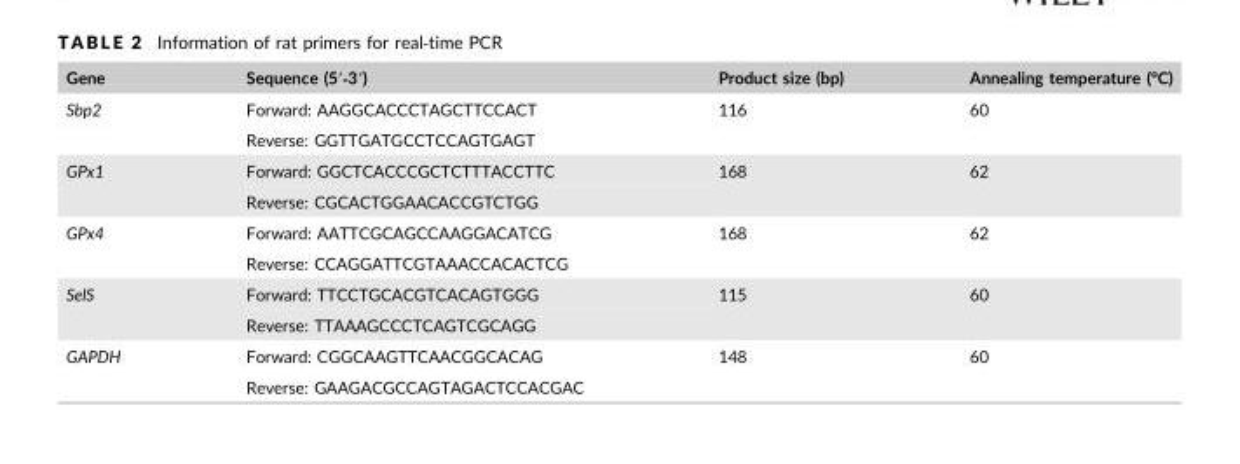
<table><thead><tr><td>Gene</td><td>Sequence (5′‐3′)</td><td>Product size (bp)</td><td>Annealing temperature (°C)</td></tr></thead><tbody><tr><td rowspan="2">Sbp2</td><td>Forward: AAGGCACCCTAGCTTCCACT</td><td rowspan="2">116</td><td rowspan="2">60</td></tr><tr><td>Reverse: GGTTGATGCCTCCAGTGAGT</td></tr><tr><td rowspan="2">GPx1</td><td>Forward: GGCTCACCCGCTCTTTACCTTC</td><td rowspan="2">168</td><td rowspan="2">62</td></tr><tr><td>Reverse: CGCACTGGAACACCGTCTGG</td></tr><tr><td rowspan="2">GPx4</td><td>Forward: AATTCGCAGCCAAGGACATCG</td><td rowspan="2">168</td><td rowspan="2">62</td></tr><tr><td>Reverse: CCAGGATTCGTAAACCACACTCG</td></tr><tr><td rowspan="2">SelS</td><td>Forward: TTCCTGCACGTCACAGTGGG</td><td rowspan="2">115</td><td rowspan="2">60</td></tr><tr><td>Reverse: TTAAAGCCCTCAGTCGCAGG</td></tr><tr><td rowspan="2">GAPDH</td><td>Forward: CGGCAAGTTCAACGGCACAG</td><td rowspan="2">148</td><td rowspan="2">60</td></tr><tr><td>Reverse: GAAGACGCCAGTAGACTCCACGAC</td></tr></tbody></table>